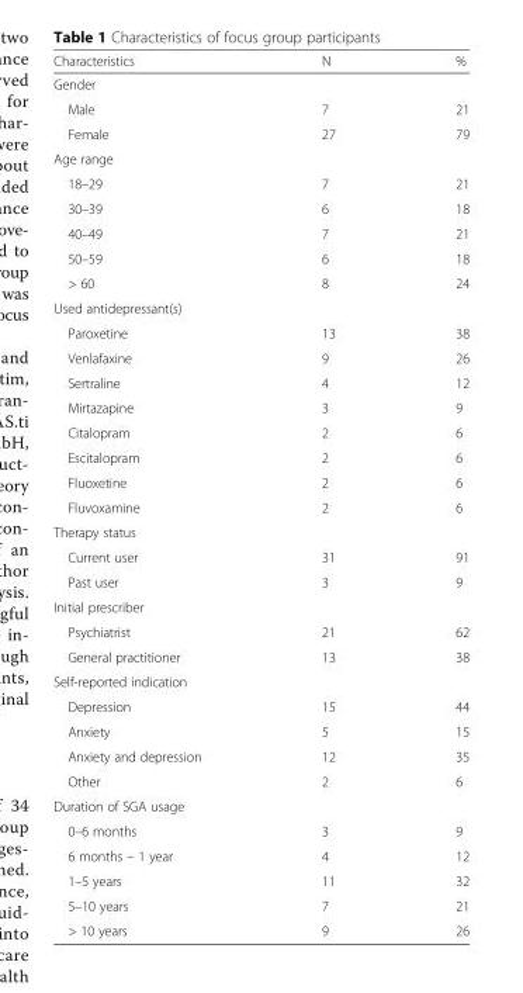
<table><thead><tr><td>Characteristics</td><td>N</td><td>%</td></tr></thead><tbody><tr><td colspan="3">Gender</td></tr><tr><td>Male</td><td>7</td><td>21</td></tr><tr><td>Female</td><td>27</td><td>79</td></tr><tr><td colspan="3">Age range</td></tr><tr><td>18–29</td><td>7</td><td>21</td></tr><tr><td>30–39</td><td>6</td><td>18</td></tr><tr><td>40–49</td><td>7</td><td>21</td></tr><tr><td>50–59</td><td>6</td><td>18</td></tr><tr><td>&gt; 60</td><td>8</td><td>24</td></tr><tr><td colspan="3">Used antidepressant(s)</td></tr><tr><td>Paroxetine</td><td>13</td><td>38</td></tr><tr><td>Venlafaxine</td><td>9</td><td>26</td></tr><tr><td>Sertraline</td><td>4</td><td>12</td></tr><tr><td>Mirtazapine</td><td>3</td><td>9</td></tr><tr><td>Citalopram</td><td>2</td><td>6</td></tr><tr><td>Escitalopram</td><td>2</td><td>6</td></tr><tr><td>Fluoxetine</td><td>2</td><td>6</td></tr><tr><td>Fluvoxamine</td><td>2</td><td>6</td></tr><tr><td colspan="3">Therapy status</td></tr><tr><td>Current user</td><td>31</td><td>91</td></tr><tr><td>Past user</td><td>3</td><td>9</td></tr><tr><td colspan="3">Initial prescriber</td></tr><tr><td>Psychiatrist</td><td>21</td><td>62</td></tr><tr><td>General practitioner</td><td>13</td><td>38</td></tr><tr><td colspan="3">Self-reported indication</td></tr><tr><td>Depression</td><td>15</td><td>44</td></tr><tr><td>Anxiety</td><td>5</td><td>15</td></tr><tr><td>Anxiety and depression</td><td>12</td><td>35</td></tr><tr><td>Other</td><td>2</td><td>6</td></tr><tr><td colspan="3">Duration of SGA usage</td></tr><tr><td>0–6 months</td><td>3</td><td>9</td></tr><tr><td>6 months – 1 year</td><td>4</td><td>12</td></tr><tr><td>1–5 years</td><td>11</td><td>32</td></tr><tr><td>5–10 years</td><td>7</td><td>21</td></tr><tr><td>&gt; 10 years</td><td>9</td><td>26</td></tr></tbody></table>